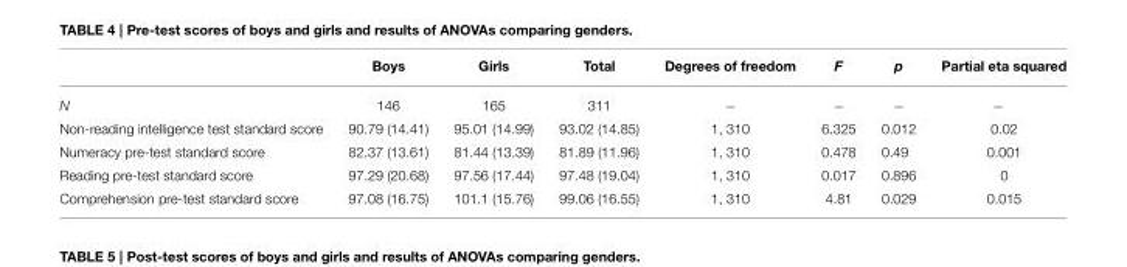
<table><thead><tr><td></td><td>Boys</td><td>Girls</td><td>Total</td><td>Degrees of freedom</td><td>F</td><td>p</td><td>Partial eta squared</td></tr></thead><tbody><tr><td>N</td><td>146</td><td>165</td><td>311</td><td>−</td><td>−</td><td>−</td><td>−</td></tr><tr><td>Non-reading intelligence test standard score</td><td>90.79 (14.41)</td><td>95.01 (14.99)</td><td>93.02 (14.85)</td><td>1, 310</td><td>6.325</td><td>0.012</td><td>0.02</td></tr><tr><td>Numeracy pre-test standard score</td><td>82.37 (13.61)</td><td>81.44 (13.39)</td><td>81.89 (11.96)</td><td>1, 310</td><td>0.478</td><td>0.49</td><td>0.001</td></tr><tr><td>Reading pre-test standard score</td><td>97.29 (20.68)</td><td>97.56 (17.44)</td><td>97.48 (19.04)</td><td>1, 310</td><td>0.017</td><td>0.896</td><td>0</td></tr><tr><td>Comprehension pre-test standard score</td><td>97.08 (16.75)</td><td>101.1 (15.76)</td><td>99.06 (16.55)</td><td>1, 310</td><td>4.81</td><td>0.029</td><td>0.015</td></tr></tbody></table>